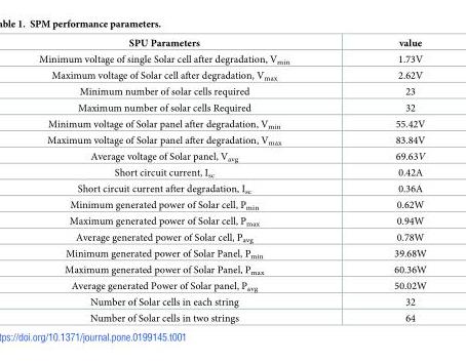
<table><thead><tr><td>SPU Parameters</td><td>value</td></tr></thead><tbody><tr><td>Minimum voltage of single Solar cell after degradation, V<sub>min</sub></td><td>1.73V</td></tr><tr><td>Maximum voltage of Solar cell after degradation, V<sub>max</sub></td><td>2.62V</td></tr><tr><td>Minimum number of solar cells required</td><td>23</td></tr><tr><td>Maximum number of solar cells Required</td><td>32</td></tr><tr><td>Minimum voltage of Solar panel after degradation, V<sub>min</sub></td><td>55.42V</td></tr><tr><td>Maximum voltage of Solar panel after degradation, V<sub>max</sub></td><td>83.84V</td></tr><tr><td>Average voltage of Solar panel, V<sub>avg</sub></td><td>69.63V</td></tr><tr><td>Short circuit current, I<sub>sc</sub></td><td>0.42A</td></tr><tr><td>Short circuit current after degradation, I<sub>sc</sub></td><td>0.36A</td></tr><tr><td>Minimum generated power of Solar cell, P<sub>min</sub></td><td>0.62W</td></tr><tr><td>Maximum generated power of Solar cell, P<sub>max</sub></td><td>0.94W</td></tr><tr><td>Average generated power of Solar cell, P<sub>avg</sub></td><td>0.78W</td></tr><tr><td>Minimum generated power of Solar Panel, P<sub>min</sub></td><td>39.68W</td></tr><tr><td>Maximum generated power of Solar Panel, P<sub>max</sub></td><td>60.36W</td></tr><tr><td>Average generated Power of Solar panel, P<sub>avg</sub></td><td>50.02W</td></tr><tr><td>Number of Solar cells in each string</td><td>32</td></tr><tr><td>Number of Solar cells in two strings</td><td>64</td></tr></tbody></table>